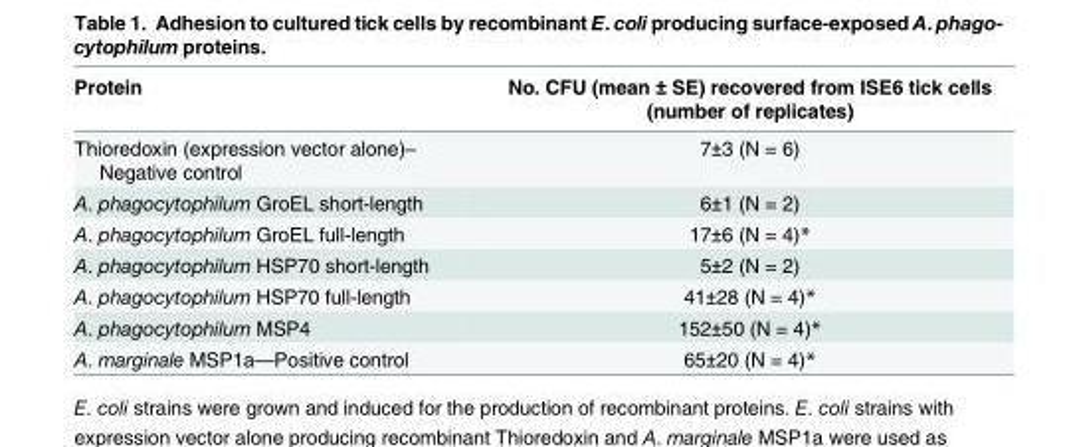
<table><thead><tr><td>Protein</td><td>No. CFU (mean ± SE) recovered from ISE6 tick cells (number of replicates)</td></tr></thead><tbody><tr><td>Thioredoxin (expression vector alone)– Negative control</td><td>7±3 (N = 6)</td></tr><tr><td>A. phagocytophilum GroEL short-length</td><td>6±1 (N = 2)</td></tr><tr><td>A. phagocytophilum GroEL full-length</td><td>17±6 (N = 4)*</td></tr><tr><td>A. phagocytophilum HSP70 short-length</td><td>5±2 (N = 2)</td></tr><tr><td>A. phagocytophilum HSP70 full-length</td><td>41±28 (N = 4)*</td></tr><tr><td>A. phagocytophilum MSP4</td><td>152±50 (N = 4)*</td></tr><tr><td>A. marginale MSP1a—Positive control</td><td>65±20 (N = 4)*</td></tr></tbody></table>